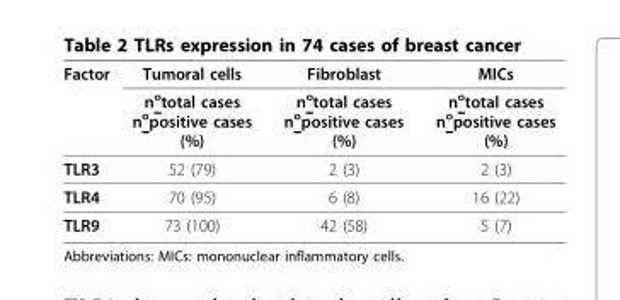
<table><thead><tr><td rowspan="2">Factor</td><td rowspan="2">Tumoral cells n<sup>o</sup>total cases n<sup>o</sup>positive cases (%)</td><td rowspan="2">Fibroblast n<sup>o</sup>total cases n<sup>o</sup>positive cases (%)</td><td rowspan="2">MICs n<sup>o</sup>total cases n<sup>o</sup>positive cases (%)</td></tr><tr></tr></thead><tbody><tr><td>TLR3</td><td>52 (79)</td><td>2 (3)</td><td>2 (3)</td></tr><tr><td>TLR4</td><td>70 (95)</td><td>6 (8)</td><td>16 (22)</td></tr><tr><td>TLR9</td><td>73 (100)</td><td>42 (58)</td><td>5 (7)</td></tr></tbody></table>